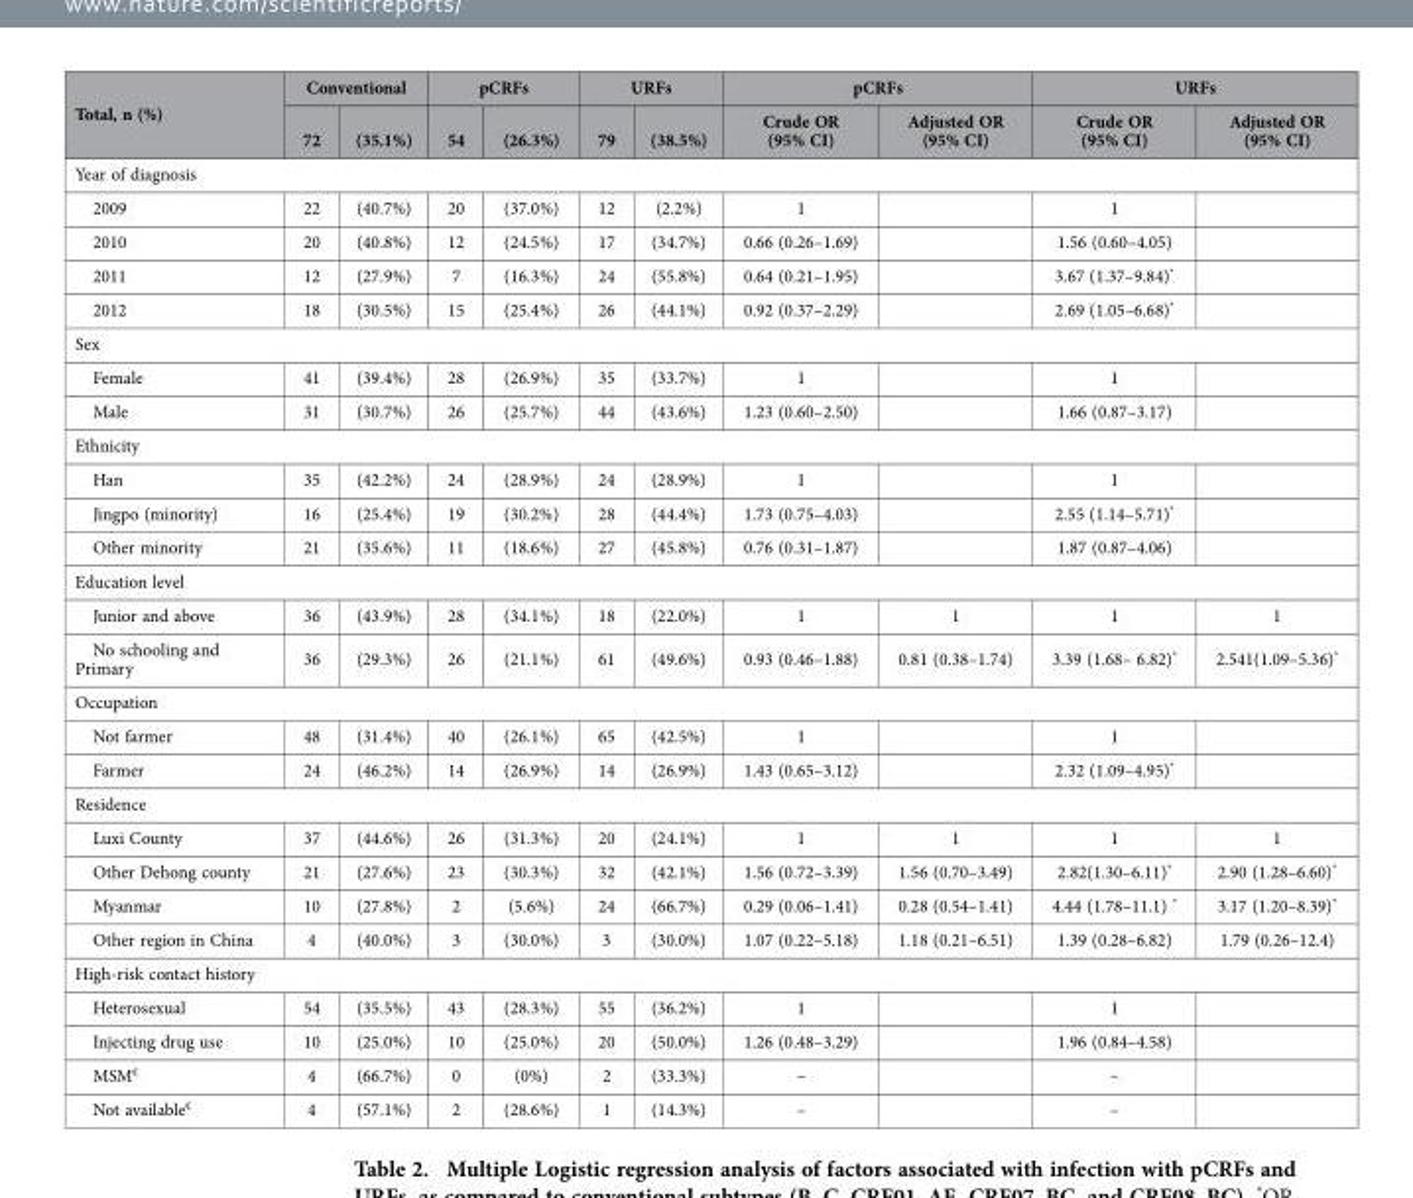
<table><thead><tr><td rowspan="2">Total, n (%)</td><td colspan="2">Conventional</td><td colspan="2">pCRFs</td><td colspan="2">URFs</td><td colspan="2">pCRFs</td><td colspan="2">URFs</td></tr><tr><td>72</td><td>(35.1%)</td><td>54</td><td>(26.3%)</td><td>79</td><td>(38.5%)</td><td>Crude OR (95% CI)</td><td>Adjusted OR (95% CI)</td><td>Crude OR (95% CI)</td><td>Adjusted OR (95% CI)</td></tr></thead><tbody><tr><td colspan="11">Year of diagnosis</td></tr><tr><td>2009</td><td>22</td><td>(40.7%)</td><td>20</td><td>(37.0%)</td><td>12</td><td>(2.2%)</td><td>1</td><td></td><td>1</td><td></td></tr><tr><td>2010</td><td>20</td><td>(40.8%)</td><td>12</td><td>(24.5%)</td><td>17</td><td>(34.7%)</td><td>0.66 (0.26–1.69)</td><td></td><td>1.56 (0.60–4.05)</td><td></td></tr><tr><td>2011</td><td>12</td><td>(27.9%)</td><td>7</td><td>(16.3%)</td><td>24</td><td>(55.8%)</td><td>0.64 (0.21–1.95)</td><td></td><td>3.67 (1.37–9.84)*</td><td></td></tr><tr><td>2012</td><td>18</td><td>(30.5%)</td><td>15</td><td>(25.4%)</td><td>26</td><td>(44.1%)</td><td>0.92 (0.37–2.29)</td><td></td><td>2.69 (1.05–6.68)*</td><td></td></tr><tr><td colspan="11">Sex</td></tr><tr><td>Female</td><td>41</td><td>(39.4%)</td><td>28</td><td>(26.9%)</td><td>35</td><td>(33.7%)</td><td>1</td><td></td><td>1</td><td></td></tr><tr><td>Male</td><td>31</td><td>(30.7%)</td><td>26</td><td>(25.7%)</td><td>44</td><td>(43.6%)</td><td>1.23 (0.60–2.50)</td><td></td><td>1.66 (0.87–3.17)</td><td></td></tr><tr><td colspan="11">Ethnicity</td></tr><tr><td>Han</td><td>35</td><td>(42.2%)</td><td>24</td><td>(28.9%)</td><td>24</td><td>(28.9%)</td><td>1</td><td></td><td>1</td><td></td></tr><tr><td>Jingpo (minority)</td><td>16</td><td>(25.4%)</td><td>19</td><td>(30.2%)</td><td>28</td><td>(44.4%)</td><td>1.73 (0.75–4.03)</td><td></td><td>2.55 (1.14–5.71)*</td><td></td></tr><tr><td>Other minority</td><td>21</td><td>(35.6%)</td><td>11</td><td>(18.6%)</td><td>27</td><td>(45.8%)</td><td>0.76 (0.31–1.87)</td><td></td><td>1.87 (0.87–4.06)</td><td></td></tr><tr><td colspan="11">Education level</td></tr><tr><td>Junior and above</td><td>36</td><td>(43.9%)</td><td>28</td><td>(34.1%)</td><td>18</td><td>(22.0%)</td><td>1</td><td>1</td><td>1</td><td>1</td></tr><tr><td>No schooling and Primary</td><td>36</td><td>(29.3%)</td><td>26</td><td>(21.1%)</td><td>61</td><td>(49.6%)</td><td>0.93 (0.46–1.88)</td><td>0.81 (0.38–1.74)</td><td>3.39 (1.68– 6.82)*</td><td>2.541(1.09–5.36)*</td></tr><tr><td colspan="11">Occupation</td></tr><tr><td>Not farmer</td><td>48</td><td>(31.4%)</td><td>40</td><td>(26.1%)</td><td>65</td><td>(42.5%)</td><td>1</td><td></td><td>1</td><td></td></tr><tr><td>Farmer</td><td>24</td><td>(46.2%)</td><td>14</td><td>(26.9%)</td><td>14</td><td>(26.9%)</td><td>1.43 (0.65–3.12)</td><td></td><td>2.32 (1.09–4.95)*</td><td></td></tr><tr><td colspan="11">Residence</td></tr><tr><td>Luxi County</td><td>37</td><td>(44.6%)</td><td>26</td><td>(31.3%)</td><td>20</td><td>(24.1%)</td><td>1</td><td>1</td><td>1</td><td>1</td></tr><tr><td>Other Dehong county</td><td>21</td><td>(27.6%)</td><td>23</td><td>(30.3%)</td><td>32</td><td>(42.1%)</td><td>1.56 (0.72–3.39)</td><td>1.56 (0.70–3.49)</td><td>2.82(1.30–6.11)*</td><td>2.90 (1.28–6.60)*</td></tr><tr><td>Myanmar</td><td>10</td><td>(27.8%)</td><td>2</td><td>(5.6%)</td><td>24</td><td>(66.7%)</td><td>0.29 (0.06–1.41)</td><td>0.28 (0.54–1.41)</td><td>4.44 (1.78–11.1) *</td><td>3.17 (1.20–8.39)*</td></tr><tr><td>Other region in China</td><td>4</td><td>(40.0%)</td><td>3</td><td>(30.0%)</td><td>3</td><td>(30.0%)</td><td>1.07 (0.22–5.18)</td><td>1.18 (0.21–6.51)</td><td>1.39 (0.28–6.82)</td><td>1.79 (0.26–12.4)</td></tr><tr><td colspan="11">High-risk contact history</td></tr><tr><td>Heterosexual</td><td>54</td><td>(35.5%)</td><td>43</td><td>(28.3%)</td><td>55</td><td>(36.2%)</td><td>1</td><td></td><td>1</td><td></td></tr><tr><td>Injecting drug use</td><td>10</td><td>(25.0%)</td><td>10</td><td>(25.0%)</td><td>20</td><td>(50.0%)</td><td>1.26 (0.48–3.29)</td><td></td><td>1.96 (0.84–4.58)</td><td></td></tr><tr><td>MSM€</td><td>4</td><td>(66.7%)</td><td>0</td><td>(0%)</td><td>2</td><td>(33.3%)</td><td>–</td><td></td><td>–</td><td></td></tr><tr><td>Not available€</td><td>4</td><td>(57.1%)</td><td>2</td><td>(28.6%)</td><td>1</td><td>(14.3%)</td><td>–</td><td></td><td>–</td><td></td></tr></tbody></table>